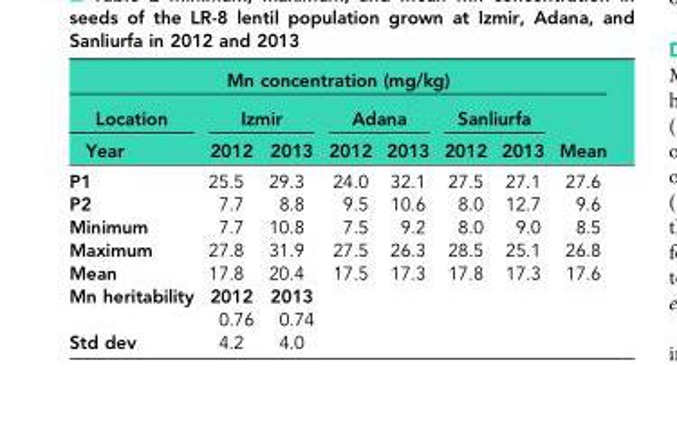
<table><thead><tr><td colspan="8">Mn concentration (mg/kg)</td></tr><tr><td rowspan="2">Location Year</td><td colspan="2">Izmir</td><td colspan="2">Adana</td><td colspan="2">Sanliurfa</td><td rowspan="2">Mean</td></tr><tr><td>2012</td><td>2013</td><td>2012</td><td>2013</td><td>2012</td><td>2013</td></tr></thead><tbody><tr><td>P1</td><td>25.5</td><td>29.3</td><td>24.0</td><td>32.1</td><td>27.5</td><td>27.1</td><td>27.6</td></tr><tr><td>P2</td><td>7.7</td><td>8.8</td><td>9.5</td><td>10.6</td><td>8.0</td><td>12.7</td><td>9.6</td></tr><tr><td>Minimum</td><td>7.7</td><td>10.8</td><td>7.5</td><td>9.2</td><td>8.0</td><td>9.0</td><td>8.5</td></tr><tr><td>Maximum</td><td>27.8</td><td>31.9</td><td>27.5</td><td>26.3</td><td>28.5</td><td>25.1</td><td>26.8</td></tr><tr><td>Mean</td><td>17.8</td><td>20.4</td><td>17.5</td><td>17.3</td><td>17.8</td><td>17.3</td><td>17.6</td></tr><tr><td rowspan="2">Mn heritability</td><td>2012</td><td>2013</td><td></td><td></td><td></td><td></td><td></td></tr><tr><td>0.76</td><td>0.74</td><td></td><td></td><td></td><td></td><td></td></tr><tr><td>Std dev</td><td>4.2</td><td>4.0</td><td></td><td></td><td></td><td></td><td></td></tr></tbody></table>